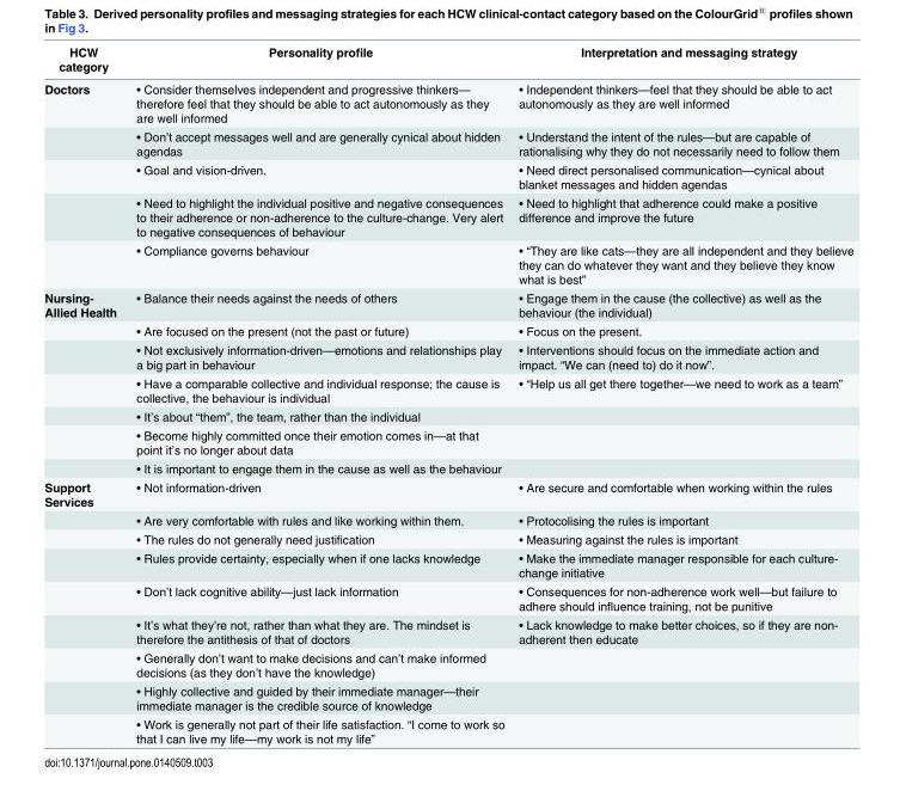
<table><thead><tr><td>HCW category</td><td>Personality profile</td><td>Interpretation and messaging strategy</td></tr></thead><tbody><tr><td rowspan="5">Doctors</td><td>• Consider themselves independent and progressive thinkers— therefore feel that they should be able to act autonomously as they are well informed</td><td>• Independent thinkers—feel that they should be able to act autonomously as they are well informed</td></tr><tr><td>• Don’t accept messages well and are generally cynical about hidden agendas</td><td>• Understand the intent of the rules—but are capable of rationalising why they do not necessarily need to follow them</td></tr><tr><td>• Goal and vision-driven.</td><td>• Need direct personalised communication—cynical about blanket messages and hidden agendas</td></tr><tr><td>• Need to highlight the individual positive and negative consequences to their adherence or non-adherence to the culture-change. Very alert to negative consequences of behaviour</td><td>• Need to highlight that adherence could make a positive difference and improve the future</td></tr><tr><td>• Compliance governs behaviour</td><td>• “They are like cats—they are all independent and they believe they can do whatever they want and they believe they know what is best”</td></tr><tr><td rowspan="7">Nursing- Allied Health</td><td>• Balance their needs against the needs of others</td><td>• Engage them in the cause (the collective) as well as the behaviour (the individual)</td></tr><tr><td>• Are focused on the present (not the past or future)</td><td>• Focus on the present.</td></tr><tr><td>• Not exclusively information-driven—emotions and relationships play a big part in behaviour</td><td>• Interventions should focus on the immediate action and impact. “We can (need to) do it now”.</td></tr><tr><td>• Have a comparable collective and individual response; the cause is collective, the behaviour is individual</td><td>• “Help us all get there together—we need to work as a team”</td></tr><tr><td>• It’s about “them”, the team, rather than the individual</td><td></td></tr><tr><td>• Become highly committed once their emotion comes in—at that point it’s no longer about data</td><td></td></tr><tr><td>• It is important to engage them in the cause as well as the behaviour</td><td></td></tr><tr><td rowspan="9">Support Services</td><td>• Not information-driven</td><td>• Are secure and comfortable when working within the rules</td></tr><tr><td>• Are very comfortable with rules and like working within them.</td><td>• Protocolising the rules is important</td></tr><tr><td>• The rules do not generally need justification</td><td>• Measuring against the rules is important</td></tr><tr><td>• Rules provide certainty, especially when if one lacks knowledge</td><td>• Make the immediate manager responsible for each culture- change initiative</td></tr><tr><td>• Don’t lack cognitive ability—just lack information</td><td>• Consequences for non-adherence work well—but failure to adhere should influence training, not be punitive</td></tr><tr><td>• It’s what they’re not, rather than what they are. The mindset is therefore the antithesis of that of doctors</td><td>• Lack knowledge to make better choices, so if they are non- adherent then educate</td></tr><tr><td>• Generally don’t want to make decisions and can’t make informed decisions (as they don’t have the knowledge)</td><td></td></tr><tr><td>• Highly collective and guided by their immediate manager—their immediate manager is the credible source of knowledge</td><td></td></tr><tr><td>• Work is generally not part of their life satisfaction. “I come to work so that I can live my life—my work is not my life”</td><td></td></tr></tbody></table>